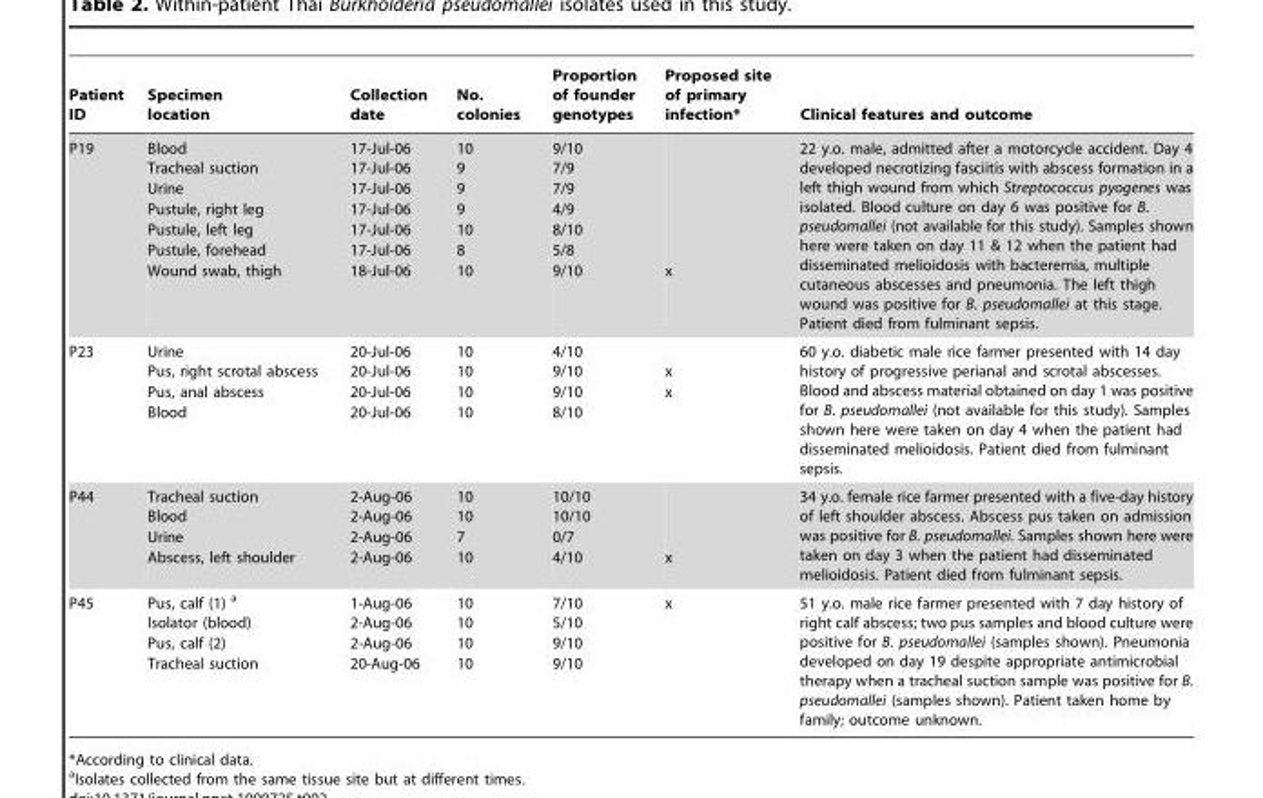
<table><thead><tr><td>Patient ID</td><td>Specimen location</td><td>Collection date</td><td>No. colonies</td><td>Proportion of founder genotypes</td><td>Proposed site of primary infection*</td><td>Clinical features and outcome</td></tr></thead><tbody><tr><td>P19</td><td>Blood Tracheal suction Urine Pustule, right leg Pustule, left leg Pustule, forehead Wound swab, thigh</td><td>17-Jul-06 17-Jul-06 17-Jul-06 17-Jul-06 17-Jul-06 17-Jul-06 18-Jul-06</td><td>10 9 9 9 10 8 10</td><td>9/10 7/9 7/9 4/9 8/10 5/8 9/10</td><td>x</td><td>22 y.o. male, admitted after a motorcycle accident. Day 4 developed necrotizing fasciitis with abscess formation in a left thigh wound from which Streptococcus pyogenes was isolated. Blood culture on day 6 was positive for B. pseudomallei (not available for this study). Samples shown here were taken on day 11 &amp; 12 when the patient had disseminated melioidosis with bacteremia, multiple cutaneous abscesses and pneumonia. The left thigh wound was positive for B. pseudomallei at this stage. Patient died from fulminant sepsis.</td></tr><tr><td>P23</td><td>Urine Pus, right scrotal abscess Pus, anal abscess Blood</td><td>20-Jul-06 20-Jul-06 20-Jul-06 20-Jul-06</td><td>10 10 10 10</td><td>4/10 9/10 9/10 8/10</td><td>x x</td><td>60 y.o. diabetic male rice farmer presented with 14 day history of progressive perianal and scrotal abscesses. Blood and abscess material obtained on day 1 was positive for B. pseudomallei (not available for this study). Samples shown here were taken on day 4 when the patient had disseminated melioidosis. Patient died from fulminant sepsis.</td></tr><tr><td>P44</td><td>Tracheal suction Blood Urine Abscess, left shoulder</td><td>2-Aug-06 2-Aug-06 2-Aug-06 2-Aug-06</td><td>10 10 7 10</td><td>10/10 10/10 0/7 4/10</td><td>x</td><td>34 y.o. female rice farmer presented with a five-day history of left shoulder abscess. Abscess pus taken on admission was positive for B. pseudomallei. Samples shown here were taken on day 3 when the patient had disseminated melioidosis. Patient died from fulminant sepsis.</td></tr><tr><td>P45</td><td>Pus, calf (1) a Isolator (blood) Pus, calf (2) Tracheal suction</td><td>1-Aug-06 2-Aug-06 2-Aug-06 20-Aug-06</td><td>10 10 10 10</td><td>7/10 5/10 9/10 9/10</td><td>x</td><td>51 y.o. male rice farmer presented with 7 day history of right calf abscess; two pus samples and blood culture were positive for B. pseudomallei (samples shown). Pneumonia developed on day 19 despite appropriate antimicrobial therapy when a tracheal suction sample was positive for B. pseudomallei (samples shown). Patient taken home by family; outcome unknown.</td></tr></tbody></table>